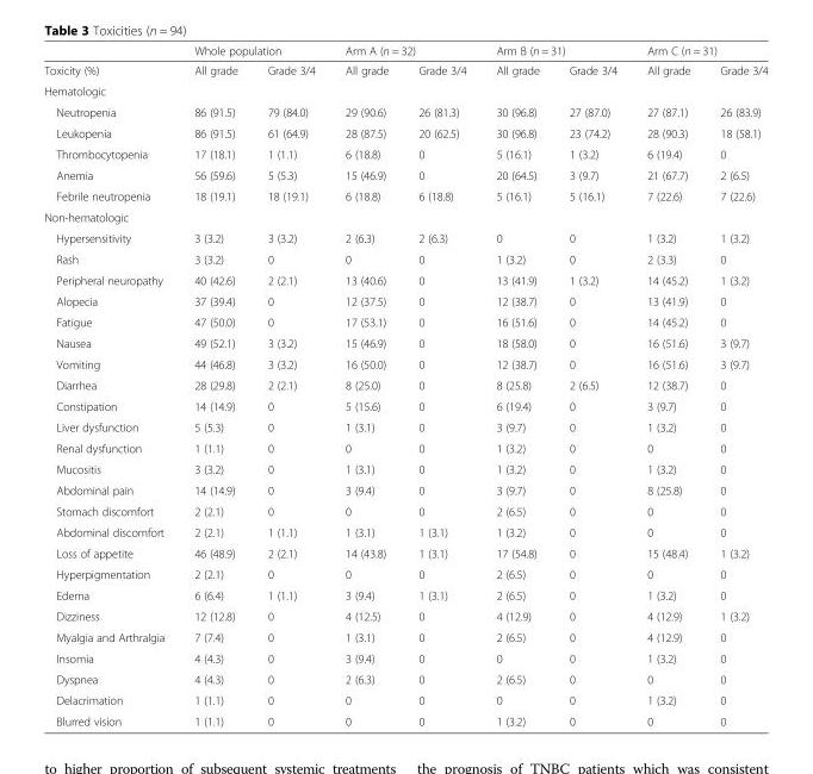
<table><thead><tr><td rowspan="2">Toxicity (%)</td><td colspan="2">Whole population</td><td colspan="2">Arm A (n = 32)</td><td colspan="2">Arm B (n = 31)</td><td colspan="2">Arm C (n = 31)</td></tr><tr><td>All grade</td><td>Grade 3/4</td><td>All grade</td><td>Grade 3/4</td><td>All grade</td><td>Grade 3/4</td><td>All grade</td><td>Grade 3/4</td></tr></thead><tbody><tr><td colspan="9">Hematologic</td></tr><tr><td>Neutropenia</td><td>86 (91.5)</td><td>79 (84.0)</td><td>29 (90.6)</td><td>26 (81.3)</td><td>30 (96.8)</td><td>27 (87.0)</td><td>27 (87.1)</td><td>26 (83.9)</td></tr><tr><td>Leukopenia</td><td>86 (91.5)</td><td>61 (64.9)</td><td>28 (87.5)</td><td>20 (62.5)</td><td>30 (96.8)</td><td>23 (74.2)</td><td>28 (90.3)</td><td>18 (58.1)</td></tr><tr><td>Thrombocytopenia</td><td>17 (18.1)</td><td>1 (1.1)</td><td>6 (18.8)</td><td>0</td><td>5 (16.1)</td><td>1 (3.2)</td><td>6 (19.4)</td><td>0</td></tr><tr><td>Anemia</td><td>56 (59.6)</td><td>5 (5.3)</td><td>15 (46.9)</td><td>0</td><td>20 (64.5)</td><td>3 (9.7)</td><td>21 (67.7)</td><td>2 (6.5)</td></tr><tr><td>Febrile neutropenia</td><td>18 (19.1)</td><td>18 (19.1)</td><td>6 (18.8)</td><td>6 (18.8)</td><td>5 (16.1)</td><td>5 (16.1)</td><td>7 (22.6)</td><td>7 (22.6)</td></tr><tr><td colspan="9">Non-hematologic</td></tr><tr><td>Hypersensitivity</td><td>3 (3.2)</td><td>3 (3.2)</td><td>2 (6.3)</td><td>2 (6.3)</td><td>0</td><td>0</td><td>1 (3.2)</td><td>1 (3.2)</td></tr><tr><td>Rash</td><td>3 (3.2)</td><td>0</td><td>0</td><td>0</td><td>1 (3.2)</td><td>0</td><td>2 (3.3)</td><td>0</td></tr><tr><td>Peripheral neuropathy</td><td>40 (42.6)</td><td>2 (2.1)</td><td>13 (40.6)</td><td>0</td><td>13 (41.9)</td><td>1 (3.2)</td><td>14 (45.2)</td><td>1 (3.2)</td></tr><tr><td>Alopecia</td><td>37 (39.4)</td><td>0</td><td>12 (37.5)</td><td>0</td><td>12 (38.7)</td><td>0</td><td>13 (41.9)</td><td>0</td></tr><tr><td>Fatigue</td><td>47 (50.0)</td><td>0</td><td>17 (53.1)</td><td>0</td><td>16 (51.6)</td><td>0</td><td>14 (45.2)</td><td>0</td></tr><tr><td>Nausea</td><td>49 (52.1)</td><td>3 (3.2)</td><td>15 (46.9)</td><td>0</td><td>18 (58.0)</td><td>0</td><td>16 (51.6)</td><td>3 (9.7)</td></tr><tr><td>Vomiting</td><td>44 (46.8)</td><td>3 (3.2)</td><td>16 (50.0)</td><td>0</td><td>12 (38.7)</td><td>0</td><td>16 (51.6)</td><td>3 (9.7)</td></tr><tr><td>Diarrhea</td><td>28 (29.8)</td><td>2 (2.1)</td><td>8 (25.0)</td><td>0</td><td>8 (25.8)</td><td>2 (6.5)</td><td>12 (38.7)</td><td>0</td></tr><tr><td>Constipation</td><td>14 (14.9)</td><td>0</td><td>5 (15.6)</td><td>0</td><td>6 (19.4)</td><td>0</td><td>3 (9.7)</td><td>0</td></tr><tr><td>Liver dysfunction</td><td>5 (5.3)</td><td>0</td><td>1 (3.1)</td><td>0</td><td>3 (9.7)</td><td>0</td><td>1 (3.2)</td><td>0</td></tr><tr><td>Renal dysfunction</td><td>1 (1.1)</td><td>0</td><td>0</td><td>0</td><td>1 (3.2)</td><td>0</td><td>0</td><td>0</td></tr><tr><td>Mucositis</td><td>3 (3.2)</td><td>0</td><td>1 (3.1)</td><td>0</td><td>1 (3.2)</td><td>0</td><td>1 (3.2)</td><td>0</td></tr><tr><td>Abdominal pain</td><td>14 (14.9)</td><td>0</td><td>3 (9.4)</td><td>0</td><td>3 (9.7)</td><td>0</td><td>8 (25.8)</td><td>0</td></tr><tr><td>Stomach discomfort</td><td>2 (2.1)</td><td>0</td><td>0</td><td>0</td><td>2 (6.5)</td><td>0</td><td>0</td><td>0</td></tr><tr><td>Abdominal discomfort</td><td>2 (2.1)</td><td>1 (1.1)</td><td>1 (3.1)</td><td>1 (3.1)</td><td>1 (3.2)</td><td>0</td><td>0</td><td>0</td></tr><tr><td>Loss of appetite</td><td>46 (48.9)</td><td>2 (2.1)</td><td>14 (43.8)</td><td>1 (3.1)</td><td>17 (54.8)</td><td>0</td><td>15 (48.4)</td><td>1 (3.2)</td></tr><tr><td>Hyperpigmentation</td><td>2 (2.1)</td><td>0</td><td>0</td><td>0</td><td>2 (6.5)</td><td>0</td><td>0</td><td>0</td></tr><tr><td>Edema</td><td>6 (6.4)</td><td>1 (1.1)</td><td>3 (9.4)</td><td>1 (3.1)</td><td>2 (6.5)</td><td>0</td><td>1 (3.2)</td><td>0</td></tr><tr><td>Dizziness</td><td>12 (12.8)</td><td>0</td><td>4 (12.5)</td><td>0</td><td>4 (12.9)</td><td>0</td><td>4 (12.9)</td><td>1 (3.2)</td></tr><tr><td>Myalgia and Arthralgia</td><td>7 (7.4)</td><td>0</td><td>1 (3.1)</td><td>0</td><td>2 (6.5)</td><td>0</td><td>4 (12.9)</td><td>0</td></tr><tr><td>Insomia</td><td>4 (4.3)</td><td>0</td><td>3 (9.4)</td><td>0</td><td>0</td><td>0</td><td>1 (3.2)</td><td>0</td></tr><tr><td>Dyspnea</td><td>4 (4.3)</td><td>0</td><td>2 (6.3)</td><td>0</td><td>2 (6.5)</td><td>0</td><td>0</td><td>0</td></tr><tr><td>Delacrimation</td><td>1 (1.1)</td><td>0</td><td>0</td><td>0</td><td>0</td><td>0</td><td>1 (3.2)</td><td>0</td></tr><tr><td>Blurred vision</td><td>1 (1.1)</td><td>0</td><td>0</td><td>0</td><td>1 (3.2)</td><td>0</td><td>0</td><td>0</td></tr></tbody></table>